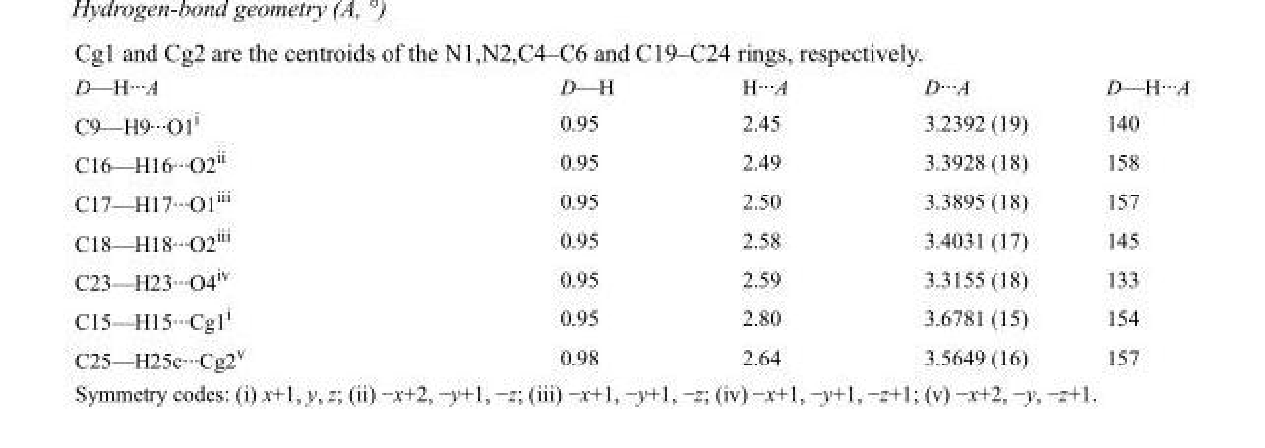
<table><tbody><tr><td>D—H···A</td><td>D—H</td><td>H···A</td><td>D···A</td><td>D—H···A</td></tr><tr><td>C9—H9···O1<sup>i</sup></td><td>0.95</td><td>2.45</td><td>3.2392 (19)</td><td>140</td></tr><tr><td>C16—H16···O2<sup>ii</sup></td><td>0.95</td><td>2.49</td><td>3.3928 (18)</td><td>158</td></tr><tr><td>C17—H17···O1<sup>iii</sup></td><td>0.95</td><td>2.50</td><td>3.3895 (18)</td><td>157</td></tr><tr><td>C18—H18···O2<sup>iii</sup></td><td>0.95</td><td>2.58</td><td>3.4031 (17)</td><td>145</td></tr><tr><td>C23—H23···O4<sup>iv</sup></td><td>0.95</td><td>2.59</td><td>3.3155 (18)</td><td>133</td></tr><tr><td>C15—H15···Cg1<sup>i</sup></td><td>0.95</td><td>2.80</td><td>3.6781 (15)</td><td>154</td></tr><tr><td>C25—H25c···Cg2<sup>v</sup></td><td>0.98</td><td>2.64</td><td>3.5649 (16)</td><td>157</td></tr></tbody></table>